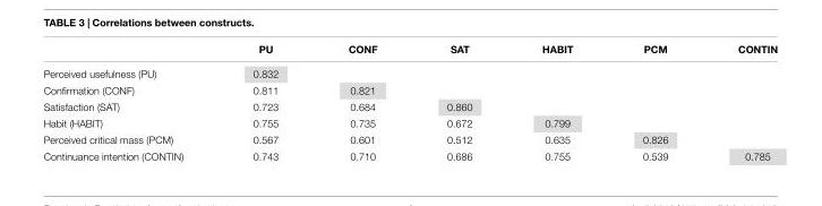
<table><thead><tr><td></td><td>PU</td><td>CONF</td><td>SAT</td><td>HABIT</td><td>PCM</td><td>CONTIN</td></tr></thead><tbody><tr><td>Perceived usefulness (PU)</td><td>0.832</td><td></td><td></td><td></td><td></td><td></td></tr><tr><td>Confirmation (CONF)</td><td>0.811</td><td>0.821</td><td></td><td></td><td></td><td></td></tr><tr><td>Satisfaction (SAT)</td><td>0.723</td><td>0.684</td><td>0.860</td><td></td><td></td><td></td></tr><tr><td>Habit (HABIT)</td><td>0.755</td><td>0.735</td><td>0.672</td><td>0.799</td><td></td><td></td></tr><tr><td>Perceived critical mass (PCM)</td><td>0.567</td><td>0.601</td><td>0.512</td><td>0.635</td><td>0.826</td><td></td></tr><tr><td>Continuance intention (CONTIN)</td><td>0.743</td><td>0.710</td><td>0.686</td><td>0.755</td><td>0.539</td><td>0.785</td></tr></tbody></table>